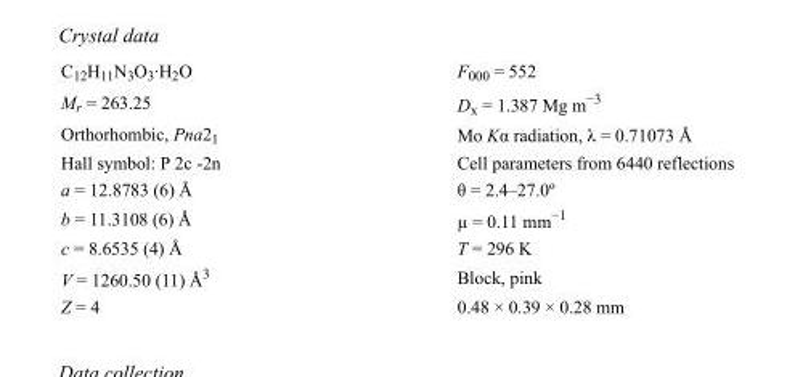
<table><tbody><tr><td>C<sub>12</sub>H<sub>11</sub>N<sub>3</sub>O<sub>3</sub>·H<sub>2</sub>O</td><td>F000 = 552</td></tr><tr><td>M<sub>r</sub> = 263.25</td><td>D<sub>x</sub> = 1.387 Mg m<sup>−3</sup></td></tr><tr><td>Orthorhombic, Pna2<sub>1</sub></td><td>Mo Kα radiation, λ = 0.71073 Å</td></tr><tr><td>Hall symbol: P 2c -2n</td><td>Cell parameters from 6440 reflections</td></tr><tr><td>a = 12.8783 (6) Å</td><td>θ = 2.4–27.0º</td></tr><tr><td>b = 11.3108 (6) Å</td><td>µ = 0.11 mm<sup>−1</sup></td></tr><tr><td>c = 8.6535 (4) Å</td><td>T = 296 K</td></tr><tr><td>V = 1260.50 (11) Å<sup>3</sup></td><td>Block, pink</td></tr><tr><td>Z = 4</td><td>0.48 × 0.39 × 0.28 mm</td></tr></tbody></table>